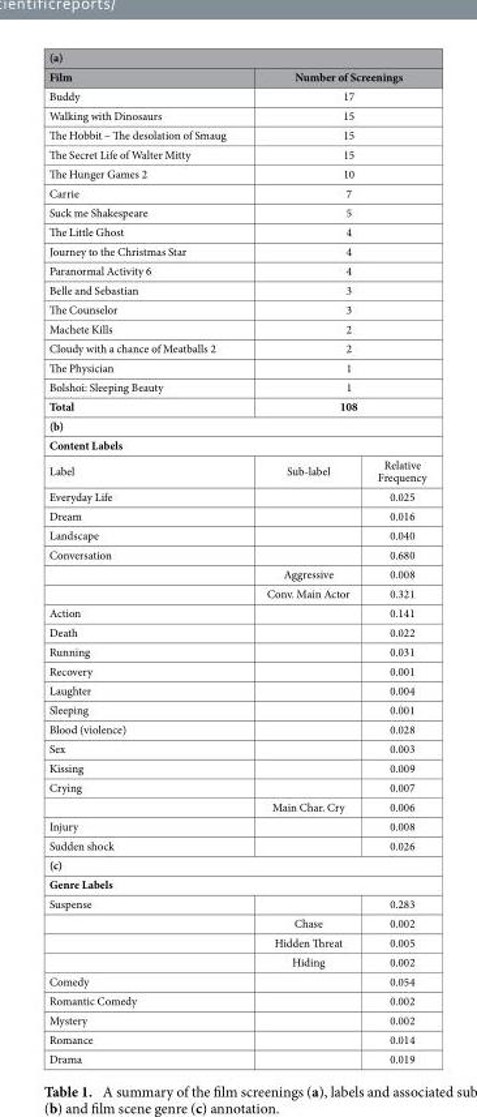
<table><thead><tr><td colspan="3">(a)</td></tr><tr><td>Film</td><td colspan="2">Number of Screenings</td></tr></thead><tbody><tr><td>Buddy</td><td colspan="2">17</td></tr><tr><td>Walking with Dinosaurs</td><td colspan="2">15</td></tr><tr><td>The Hobbit – The desolation of Smaug</td><td colspan="2">15</td></tr><tr><td>The Secret Life of Walter Mitty</td><td colspan="2">15</td></tr><tr><td>The Hunger Games 2</td><td colspan="2">10</td></tr><tr><td>Carrie</td><td colspan="2">7</td></tr><tr><td>Suck me Shakespeare</td><td colspan="2">5</td></tr><tr><td>The Little Ghost</td><td colspan="2">4</td></tr><tr><td>Journey to the Christmas Star</td><td colspan="2">4</td></tr><tr><td>Paranormal Activity 6</td><td colspan="2">4</td></tr><tr><td>Belle and Sebastian</td><td colspan="2">3</td></tr><tr><td>The Counselor</td><td colspan="2">3</td></tr><tr><td>Machete Kills</td><td colspan="2">2</td></tr><tr><td>Cloudy with a chance of Meatballs 2</td><td colspan="2">2</td></tr><tr><td>The Physician</td><td colspan="2">1</td></tr><tr><td>Bolshoi: Sleeping Beauty</td><td colspan="2">1</td></tr><tr><td>Total</td><td colspan="2">108</td></tr><tr><td colspan="3">(b)</td></tr><tr><td colspan="3">Content Labels</td></tr><tr><td>Label</td><td>Sub-label</td><td>Relative Frequency</td></tr><tr><td>Everyday Life</td><td></td><td>0.025</td></tr><tr><td>Dream</td><td></td><td>0.016</td></tr><tr><td>Landscape</td><td></td><td>0.040</td></tr><tr><td rowspan="3">Conversation</td><td></td><td>0.680</td></tr><tr><td>Aggressive</td><td>0.008</td></tr><tr><td>Conv. Main Actor</td><td>0.321</td></tr><tr><td>Action</td><td></td><td>0.141</td></tr><tr><td>Death</td><td></td><td>0.022</td></tr><tr><td>Running</td><td></td><td>0.031</td></tr><tr><td>Recovery</td><td></td><td>0.001</td></tr><tr><td>Laughter</td><td></td><td>0.004</td></tr><tr><td>Sleeping</td><td></td><td>0.001</td></tr><tr><td>Blood (violence)</td><td></td><td>0.028</td></tr><tr><td>Sex</td><td></td><td>0.003</td></tr><tr><td>Kissing</td><td></td><td>0.009</td></tr><tr><td rowspan="2">Crying</td><td></td><td>0.007</td></tr><tr><td>Main Char. Cry</td><td>0.006</td></tr><tr><td>Injury</td><td></td><td>0.008</td></tr><tr><td>Sudden shock</td><td></td><td>0.026</td></tr><tr><td colspan="3">(c)</td></tr><tr><td colspan="3">Genre Labels</td></tr><tr><td rowspan="4">Suspense</td><td></td><td>0.283</td></tr><tr><td>Chase</td><td>0.002</td></tr><tr><td>Hidden Threat</td><td>0.005</td></tr><tr><td>Hiding</td><td>0.002</td></tr><tr><td>Comedy</td><td></td><td>0.054</td></tr><tr><td>Romantic Comedy</td><td></td><td>0.002</td></tr><tr><td>Mystery</td><td></td><td>0.002</td></tr><tr><td>Romance</td><td></td><td>0.014</td></tr><tr><td>Drama</td><td></td><td>0.019</td></tr></tbody></table>